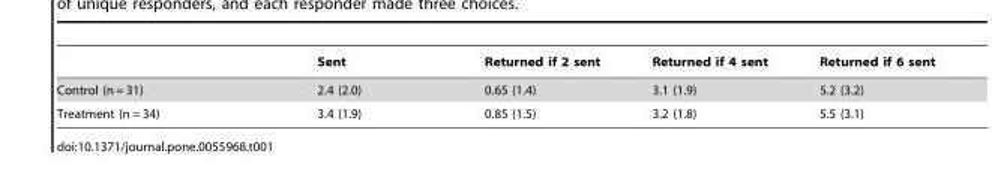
<table><thead><tr><td></td><td>Sent</td><td>Returned if 2 sent</td><td>Returned if 4 sent</td><td>Returned if 6 sent</td></tr></thead><tbody><tr><td>Control (n = 31)</td><td>2.4 (2.0)</td><td>0.65 (1.4)</td><td>3.1 (1.9)</td><td>5.2 (3.2)</td></tr><tr><td>Treatment (n = 34)</td><td>3.4 (1.9)</td><td>0.85 (1.5)</td><td>3.2 (1.8)</td><td>5.5 (3.1)</td></tr></tbody></table>